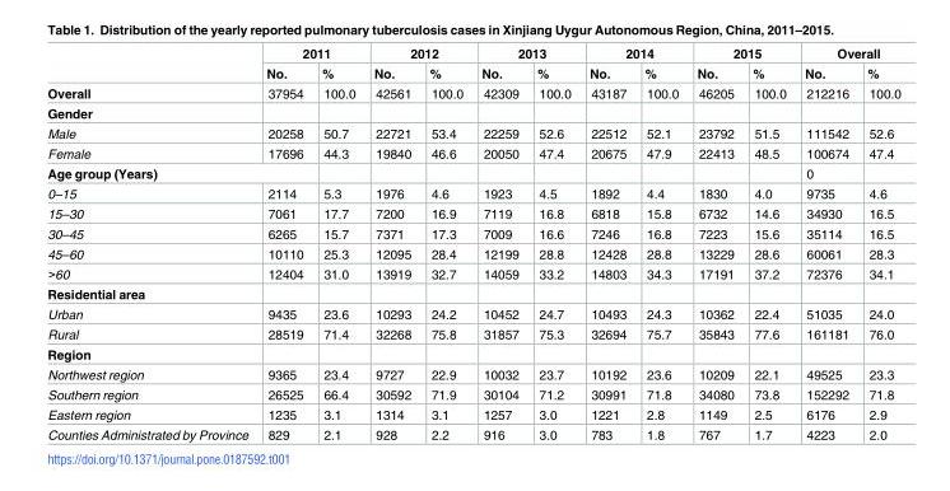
<table><thead><tr><td rowspan="2"></td><td colspan="2">2011</td><td colspan="2">2012</td><td colspan="2">2013</td><td colspan="2">2014</td><td colspan="2">2015</td><td colspan="2">Overall</td></tr><tr><td>No.</td><td>%</td><td>No.</td><td>%</td><td>No.</td><td>%</td><td>No.</td><td>%</td><td>No.</td><td>%</td><td>No.</td><td>%</td></tr></thead><tbody><tr><td>Overall</td><td>37954</td><td>100.0</td><td>42561</td><td>100.0</td><td>42309</td><td>100.0</td><td>43187</td><td>100.0</td><td>46205</td><td>100.0</td><td>212216</td><td>100.0</td></tr><tr><td colspan="13">Gender</td></tr><tr><td>Male</td><td>20258</td><td>50.7</td><td>22721</td><td>53.4</td><td>22259</td><td>52.6</td><td>22512</td><td>52.1</td><td>23792</td><td>51.5</td><td>111542</td><td>52.6</td></tr><tr><td>Female</td><td>17696</td><td>44.3</td><td>19840</td><td>46.6</td><td>20050</td><td>47.4</td><td>20675</td><td>47.9</td><td>22413</td><td>48.5</td><td>100674</td><td>47.4</td></tr><tr><td colspan="2">Age group (Years)</td><td></td><td></td><td></td><td></td><td></td><td></td><td></td><td></td><td></td><td>0</td><td></td></tr><tr><td>0–15</td><td>2114</td><td>5.3</td><td>1976</td><td>4.6</td><td>1923</td><td>4.5</td><td>1892</td><td>4.4</td><td>1830</td><td>4.0</td><td>9735</td><td>4.6</td></tr><tr><td>15–30</td><td>7061</td><td>17.7</td><td>7200</td><td>16.9</td><td>7119</td><td>16.8</td><td>6818</td><td>15.8</td><td>6732</td><td>14.6</td><td>34930</td><td>16.5</td></tr><tr><td>30–45</td><td>6265</td><td>15.7</td><td>7371</td><td>17.3</td><td>7009</td><td>16.6</td><td>7246</td><td>16.8</td><td>7223</td><td>15.6</td><td>35114</td><td>16.5</td></tr><tr><td>45–60</td><td>10110</td><td>25.3</td><td>12095</td><td>28.4</td><td>12199</td><td>28.8</td><td>12428</td><td>28.8</td><td>13229</td><td>28.6</td><td>60061</td><td>28.3</td></tr><tr><td>&gt;60</td><td>12404</td><td>31.0</td><td>13919</td><td>32.7</td><td>14059</td><td>33.2</td><td>14803</td><td>34.3</td><td>17191</td><td>37.2</td><td>72376</td><td>34.1</td></tr><tr><td colspan="13">Residential area</td></tr><tr><td>Urban</td><td>9435</td><td>23.6</td><td>10293</td><td>24.2</td><td>10452</td><td>24.7</td><td>10493</td><td>24.3</td><td>10362</td><td>22.4</td><td>51035</td><td>24.0</td></tr><tr><td>Rural</td><td>28519</td><td>71.4</td><td>32268</td><td>75.8</td><td>31857</td><td>75.3</td><td>32694</td><td>75.7</td><td>35843</td><td>77.6</td><td>161181</td><td>76.0</td></tr><tr><td colspan="13">Region</td></tr><tr><td>Northwest region</td><td>9365</td><td>23.4</td><td>9727</td><td>22.9</td><td>10032</td><td>23.7</td><td>10192</td><td>23.6</td><td>10209</td><td>22.1</td><td>49525</td><td>23.3</td></tr><tr><td>Southern region</td><td>26525</td><td>66.4</td><td>30592</td><td>71.9</td><td>30104</td><td>71.2</td><td>30991</td><td>71.8</td><td>34080</td><td>73.8</td><td>152292</td><td>71.8</td></tr><tr><td>Eastern region</td><td>1235</td><td>3.1</td><td>1314</td><td>3.1</td><td>1257</td><td>3.0</td><td>1221</td><td>2.8</td><td>1149</td><td>2.5</td><td>6176</td><td>2.9</td></tr><tr><td>Counties Administrated by Province</td><td>829</td><td>2.1</td><td>928</td><td>2.2</td><td>916</td><td>3.0</td><td>783</td><td>1.8</td><td>767</td><td>1.7</td><td>4223</td><td>2.0</td></tr></tbody></table>